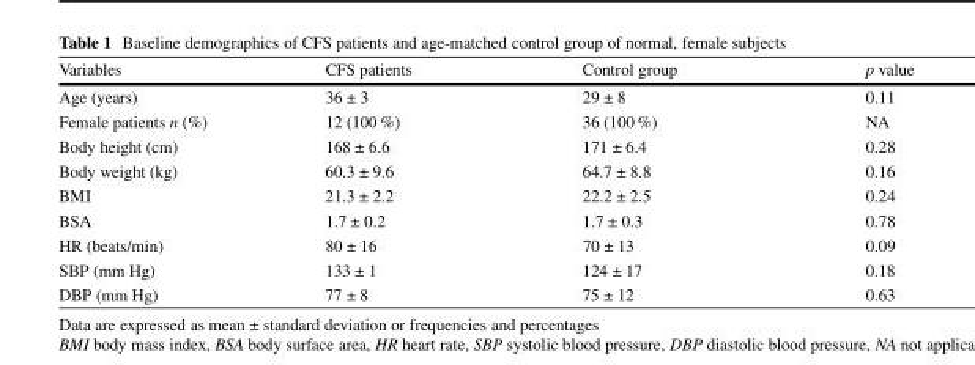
<table><thead><tr><td>Variables</td><td>CFS patients</td><td>Control group</td><td>p value</td></tr></thead><tbody><tr><td>Age (years)</td><td>36 ± 3</td><td>29 ± 8</td><td>0.11</td></tr><tr><td>Female patients n (%)</td><td>12 (100 %)</td><td>36 (100 %)</td><td>NA</td></tr><tr><td>Body height (cm)</td><td>168 ± 6.6</td><td>171 ± 6.4</td><td>0.28</td></tr><tr><td>Body weight (kg)</td><td>60.3 ± 9.6</td><td>64.7 ± 8.8</td><td>0.16</td></tr><tr><td>BMI</td><td>21.3 ± 2.2</td><td>22.2 ± 2.5</td><td>0.24</td></tr><tr><td>BSA</td><td>1.7 ± 0.2</td><td>1.7 ± 0.3</td><td>0.78</td></tr><tr><td>HR (beats/min)</td><td>80 ± 16</td><td>70 ± 13</td><td>0.09</td></tr><tr><td>SBP (mm Hg)</td><td>133 ± 1</td><td>124 ± 17</td><td>0.18</td></tr><tr><td>DBP (mm Hg)</td><td>77 ± 8</td><td>75 ± 12</td><td>0.63</td></tr></tbody></table>